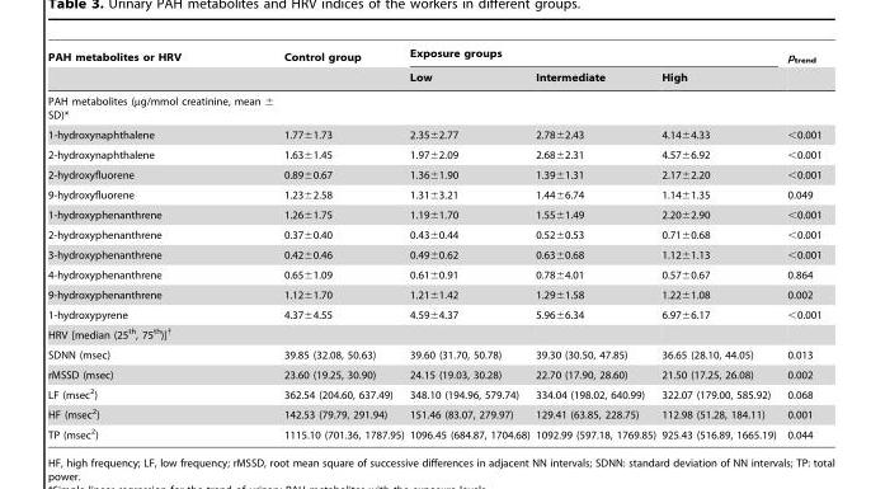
<table><thead><tr><td rowspan="2">PAH metabolites or HRV</td><td rowspan="2">Control group</td><td colspan="3">Exposure groups</td><td rowspan="2">p<sub>trend</sub></td></tr><tr><td>Low</td><td>Intermediate</td><td>High</td></tr></thead><tbody><tr><td colspan="6">PAH metabolites (µg/mmol creatinine, mean ± SD)*</td></tr><tr><td>1-hydroxynaphthalene</td><td>1.77±1.73</td><td>2.35±2.77</td><td>2.78±2.43</td><td>4.14±4.33</td><td>&lt;0.001</td></tr><tr><td>2-hydroxynaphthalene</td><td>1.63±1.45</td><td>1.97±2.09</td><td>2.68±2.31</td><td>4.57±6.92</td><td>&lt;0.001</td></tr><tr><td>2-hydroxyfluorene</td><td>0.89±0.67</td><td>1.36±1.90</td><td>1.39±1.31</td><td>2.17±2.20</td><td>&lt;0.001</td></tr><tr><td>9-hydroxyfluorene</td><td>1.23±2.58</td><td>1.31±3.21</td><td>1.44±6.74</td><td>1.14±1.35</td><td>0.049</td></tr><tr><td>1-hydroxyphenanthrene</td><td>1.26±1.75</td><td>1.19±1.70</td><td>1.55±1.49</td><td>2.20±2.90</td><td>&lt;0.001</td></tr><tr><td>2-hydroxyphenanthrene</td><td>0.37±0.40</td><td>0.43±0.44</td><td>0.52±0.53</td><td>0.71±0.68</td><td>&lt;0.001</td></tr><tr><td>3-hydroxyphenanthrene</td><td>0.42±0.46</td><td>0.49±0.62</td><td>0.63±0.68</td><td>1.12±1.13</td><td>&lt;0.001</td></tr><tr><td>4-hydroxyphenanthrene</td><td>0.65±1.09</td><td>0.61±0.91</td><td>0.78±4.01</td><td>0.57±0.67</td><td>0.864</td></tr><tr><td>9-hydroxyphenanthrene</td><td>1.12±1.70</td><td>1.21±1.42</td><td>1.29±1.58</td><td>1.22±1.08</td><td>0.002</td></tr><tr><td>1-hydroxypyrene</td><td>4.37±4.55</td><td>4.59±4.37</td><td>5.96±6.34</td><td>6.97±6.17</td><td>&lt;0.001</td></tr><tr><td colspan="6">HRV [median (25<sup>th</sup>, 75<sup>th</sup>)]†</td></tr><tr><td>SDNN (msec)</td><td>39.85 (32.08, 50.63)</td><td>39.60 (31.70, 50.78)</td><td>39.30 (30.50, 47.85)</td><td>36.65 (28.10, 44.05)</td><td>0.013</td></tr><tr><td>rMSSD (msec)</td><td>23.60 (19.25, 30.90)</td><td>24.15 (19.03, 30.28)</td><td>22.70 (17.90, 28.60)</td><td>21.50 (17.25, 26.08)</td><td>0.002</td></tr><tr><td>LF (msec<sup>2</sup>)</td><td>362.54 (204.60, 637.49)</td><td>348.10 (194.96, 579.74)</td><td>334.04 (198.02, 640.99)</td><td>322.07 (179.00, 585.92)</td><td>0.068</td></tr><tr><td>HF (msec<sup>2</sup>)</td><td>142.53 (79.79, 291.94)</td><td>151.46 (83.07, 279.97)</td><td>129.41 (63.85, 228.75)</td><td>112.98 (51.28, 184.11)</td><td>0.001</td></tr><tr><td>TP (msec<sup>2</sup>)</td><td>1115.10 (701.36, 1787.95)</td><td>1096.45 (684.87, 1704.68)</td><td>1092.99 (597.18, 1769.85)</td><td>925.43 (516.89, 1665.19)</td><td>0.044</td></tr></tbody></table>